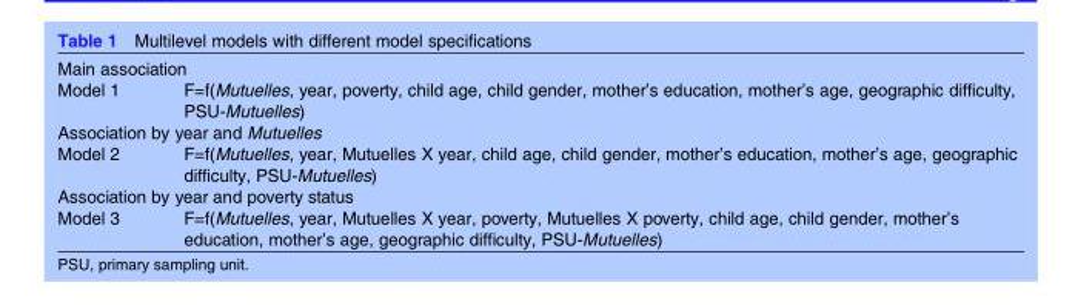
<table><tbody><tr><td colspan="2">Main association</td></tr><tr><td>Model 1</td><td>F=f(Mutuelles, year, poverty, child age, child gender, mother’s education, mother’s age, geographic difficulty, PSU-Mutuelles)</td></tr><tr><td colspan="2">Association by year and Mutuelles</td></tr><tr><td>Model 2</td><td>F=f(Mutuelles, year, Mutuelles X year, child age, child gender, mother’s education, mother’s age, geographic difficulty, PSU-Mutuelles)</td></tr><tr><td colspan="2">Association by year and poverty status</td></tr><tr><td>Model 3</td><td>F=f(Mutuelles, year, Mutuelles X year, poverty, Mutuelles X poverty, child age, child gender, mother’s education, mother’s age, geographic difficulty, PSU-Mutuelles)</td></tr></tbody></table>